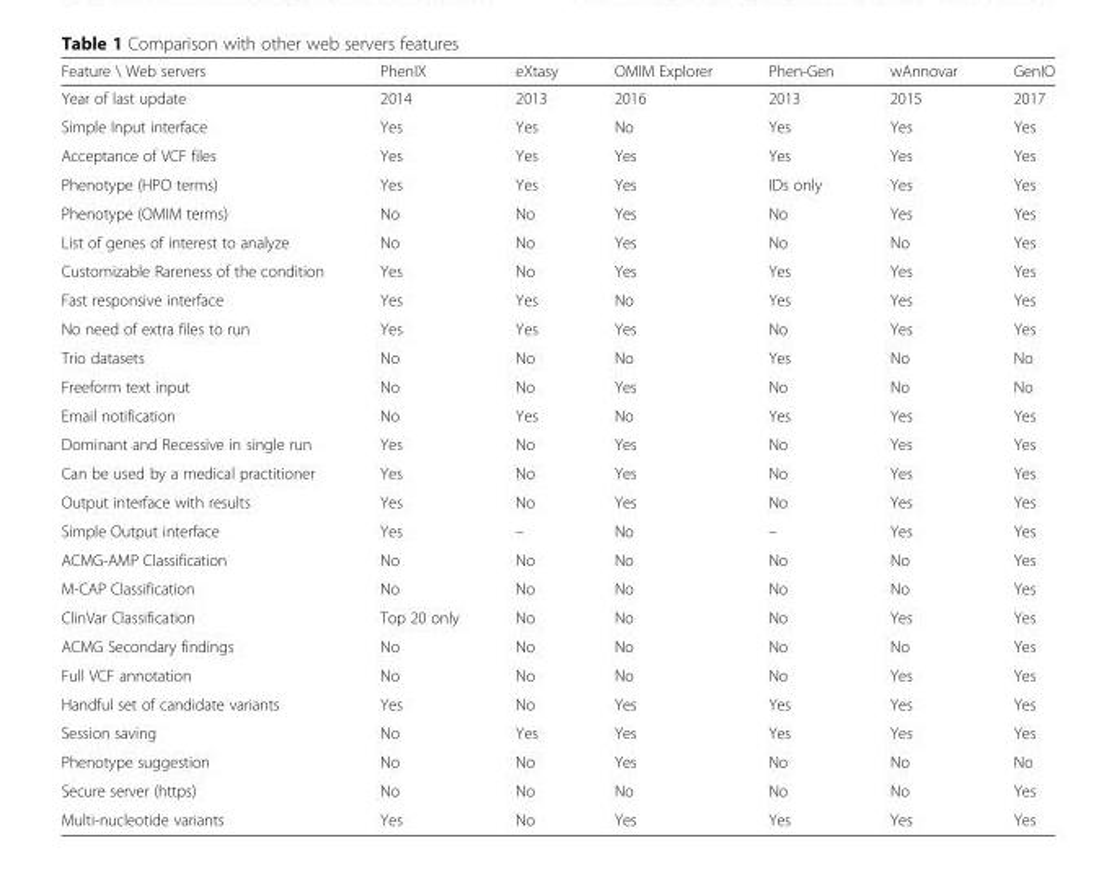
<table><thead><tr><td>Feature \ Web servers</td><td>PhenIX</td><td>eXtasy</td><td>OMIM Explorer</td><td>Phen-Gen</td><td>wAnnovar</td><td>GenIO</td></tr></thead><tbody><tr><td>Year of last update</td><td>2014</td><td>2013</td><td>2016</td><td>2013</td><td>2015</td><td>2017</td></tr><tr><td>Simple Input interface</td><td>Yes</td><td>Yes</td><td>No</td><td>Yes</td><td>Yes</td><td>Yes</td></tr><tr><td>Acceptance of VCF files</td><td>Yes</td><td>Yes</td><td>Yes</td><td>Yes</td><td>Yes</td><td>Yes</td></tr><tr><td>Phenotype (HPO terms)</td><td>Yes</td><td>Yes</td><td>Yes</td><td>IDs only</td><td>Yes</td><td>Yes</td></tr><tr><td>Phenotype (OMIM terms)</td><td>No</td><td>No</td><td>Yes</td><td>No</td><td>Yes</td><td>Yes</td></tr><tr><td>List of genes of interest to analyze</td><td>No</td><td>No</td><td>Yes</td><td>No</td><td>No</td><td>Yes</td></tr><tr><td>Customizable Rareness of the condition</td><td>Yes</td><td>No</td><td>Yes</td><td>Yes</td><td>Yes</td><td>Yes</td></tr><tr><td>Fast responsive interface</td><td>Yes</td><td>Yes</td><td>No</td><td>Yes</td><td>Yes</td><td>Yes</td></tr><tr><td>No need of extra files to run</td><td>Yes</td><td>Yes</td><td>Yes</td><td>No</td><td>Yes</td><td>Yes</td></tr><tr><td>Trio datasets</td><td>No</td><td>No</td><td>No</td><td>Yes</td><td>No</td><td>No</td></tr><tr><td>Freeform text input</td><td>No</td><td>No</td><td>Yes</td><td>No</td><td>No</td><td>No</td></tr><tr><td>Email notification</td><td>No</td><td>Yes</td><td>No</td><td>Yes</td><td>Yes</td><td>Yes</td></tr><tr><td>Dominant and Recessive in single run</td><td>Yes</td><td>No</td><td>Yes</td><td>No</td><td>Yes</td><td>Yes</td></tr><tr><td>Can be used by a medical practitioner</td><td>Yes</td><td>No</td><td>Yes</td><td>No</td><td>Yes</td><td>Yes</td></tr><tr><td>Output interface with results</td><td>Yes</td><td>No</td><td>Yes</td><td>No</td><td>Yes</td><td>Yes</td></tr><tr><td>Simple Output interface</td><td>Yes</td><td>–</td><td>No</td><td>–</td><td>Yes</td><td>Yes</td></tr><tr><td>ACMG-AMP Classification</td><td>No</td><td>No</td><td>No</td><td>No</td><td>No</td><td>Yes</td></tr><tr><td>M-CAP Classification</td><td>No</td><td>No</td><td>No</td><td>No</td><td>No</td><td>Yes</td></tr><tr><td>ClinVar Classification</td><td>Top 20 only</td><td>No</td><td>No</td><td>No</td><td>Yes</td><td>Yes</td></tr><tr><td>ACMG Secondary findings</td><td>No</td><td>No</td><td>No</td><td>No</td><td>No</td><td>Yes</td></tr><tr><td>Full VCF annotation</td><td>No</td><td>No</td><td>No</td><td>No</td><td>Yes</td><td>Yes</td></tr><tr><td>Handful set of candidate variants</td><td>Yes</td><td>No</td><td>Yes</td><td>Yes</td><td>Yes</td><td>Yes</td></tr><tr><td>Session saving</td><td>No</td><td>Yes</td><td>Yes</td><td>Yes</td><td>Yes</td><td>Yes</td></tr><tr><td>Phenotype suggestion</td><td>No</td><td>No</td><td>Yes</td><td>No</td><td>No</td><td>No</td></tr><tr><td>Secure server (https)</td><td>No</td><td>No</td><td>No</td><td>No</td><td>No</td><td>Yes</td></tr><tr><td>Multi-nucleotide variants</td><td>Yes</td><td>No</td><td>Yes</td><td>Yes</td><td>Yes</td><td>Yes</td></tr></tbody></table>